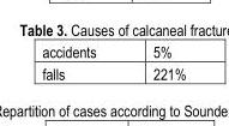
<table><tbody><tr><td>accidents</td><td>5%</td></tr><tr><td>falls</td><td>221%</td></tr></tbody></table>